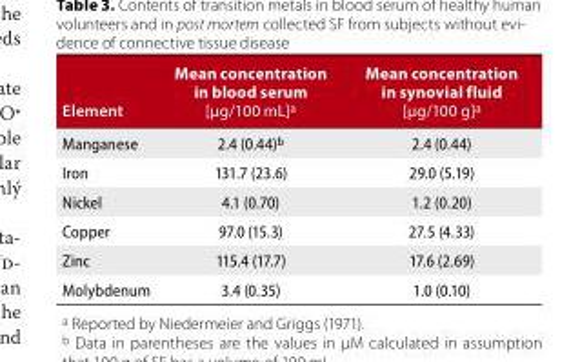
<table><thead><tr><td>Element</td><td>Mean concentration in blood serum [μg/100 mL]<sup>a</sup></td><td>Mean concentration in synovial fluid [μg/100 g]<sup>a</sup></td></tr></thead><tbody><tr><td>Manganese</td><td>2.4 (0.44)<sup>b</sup></td><td>2.4 (0.44)</td></tr><tr><td>Iron</td><td>131.7 (23.6)</td><td>29.0 (5.19)</td></tr><tr><td>Nickel</td><td>4.1 (0.70)</td><td>1.2 (0.20)</td></tr><tr><td>Copper</td><td>97.0 (15.3)</td><td>27.5 (4.33)</td></tr><tr><td>Zinc</td><td>115.4 (17.7)</td><td>17.6 (2.69)</td></tr><tr><td>Molybdenum</td><td>3.4 (0.35)</td><td>1.0 (0.10)</td></tr></tbody></table>